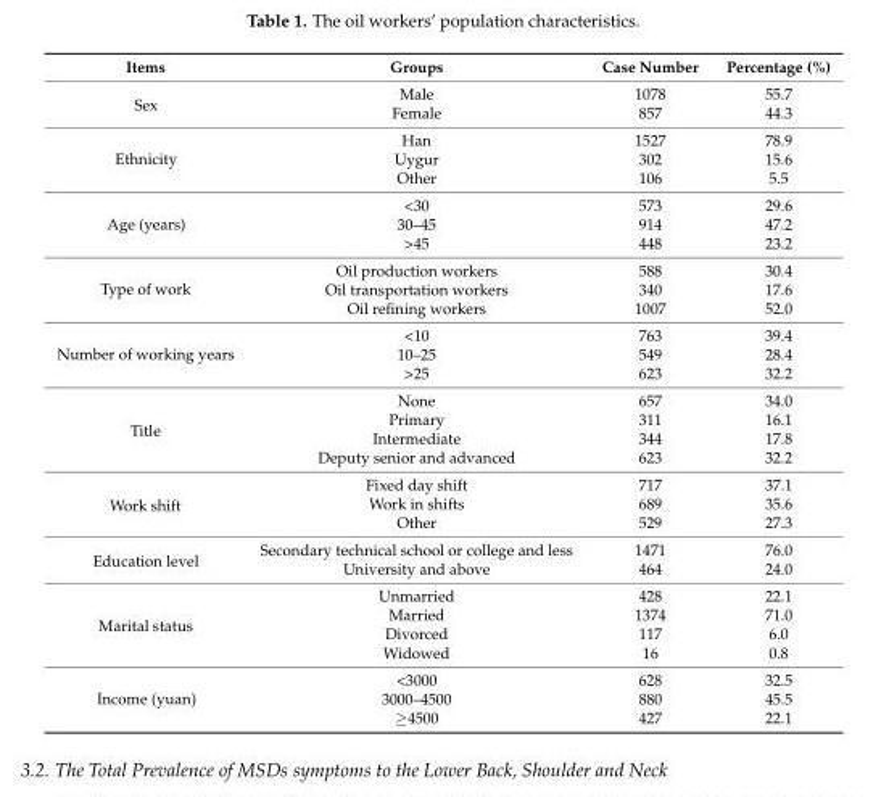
<table><thead><tr><td>Items</td><td>Groups</td><td>Case Number</td><td>Percentage (%)</td></tr></thead><tbody><tr><td rowspan="2">Sex</td><td>Male</td><td>1078</td><td>55.7</td></tr><tr><td>Female</td><td>857</td><td>44.3</td></tr><tr><td rowspan="3">Ethnicity</td><td>Han</td><td>1527</td><td>78.9</td></tr><tr><td>Uygur</td><td>302</td><td>15.6</td></tr><tr><td>Other</td><td>106</td><td>5.5</td></tr><tr><td rowspan="3">Age (years)</td><td>&lt;30</td><td>573</td><td>29.6</td></tr><tr><td>30–45</td><td>914</td><td>47.2</td></tr><tr><td>&gt;45</td><td>448</td><td>23.2</td></tr><tr><td rowspan="3">Type of work</td><td>Oil production workers</td><td>588</td><td>30.4</td></tr><tr><td>Oil transportation workers</td><td>340</td><td>17.6</td></tr><tr><td>Oil refining workers</td><td>1007</td><td>52.0</td></tr><tr><td rowspan="3">Number of working years</td><td>&lt;10</td><td>763</td><td>39.4</td></tr><tr><td>10–25</td><td>549</td><td>28.4</td></tr><tr><td>&gt;25</td><td>623</td><td>32.2</td></tr><tr><td rowspan="4">Title</td><td>None</td><td>657</td><td>34.0</td></tr><tr><td>Primary</td><td>311</td><td>16.1</td></tr><tr><td>Intermediate</td><td>344</td><td>17.8</td></tr><tr><td>Deputy senior and advanced</td><td>623</td><td>32.2</td></tr><tr><td rowspan="3">Work shift</td><td>Fixed day shift</td><td>717</td><td>37.1</td></tr><tr><td>Work in shifts</td><td>689</td><td>35.6</td></tr><tr><td>Other</td><td>529</td><td>27.3</td></tr><tr><td rowspan="2">Education level</td><td>Secondary technical school or college and less</td><td>1471</td><td>76.0</td></tr><tr><td>University and above</td><td>464</td><td>24.0</td></tr><tr><td rowspan="4">Marital status</td><td>Unmarried</td><td>428</td><td>22.1</td></tr><tr><td>Married</td><td>1374</td><td>71.0</td></tr><tr><td>Divorced</td><td>117</td><td>6.0</td></tr><tr><td>Widowed</td><td>16</td><td>0.8</td></tr><tr><td rowspan="3">Income (yuan)</td><td>&lt;3000</td><td>628</td><td>32.5</td></tr><tr><td>3000–4500</td><td>880</td><td>45.5</td></tr><tr><td>≥4500</td><td>427</td><td>22.1</td></tr></tbody></table>